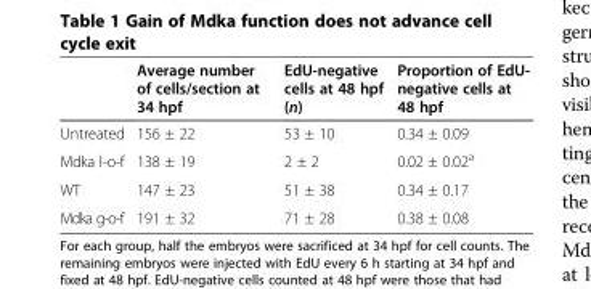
<table><thead><tr><td></td><td>Average number of cells/section at 34 hpf</td><td>EdU-negative cells at 48 hpf (n)</td><td>Proportion of EdU- negative cells at 48 hpf</td></tr></thead><tbody><tr><td>Untreated</td><td>156 ± 22</td><td>53 ± 10</td><td>0.34 ± 0.09</td></tr><tr><td>Mdka l-o-f</td><td>138 ± 19</td><td>2 ± 2</td><td>0.02 ± 0.02<sup>a</sup></td></tr><tr><td>WT</td><td>147 ± 23</td><td>51 ± 38</td><td>0.34 ± 0.17</td></tr><tr><td>Mdka g-o-f</td><td>191 ± 32</td><td>71 ± 28</td><td>0.38 ± 0.08</td></tr></tbody></table>